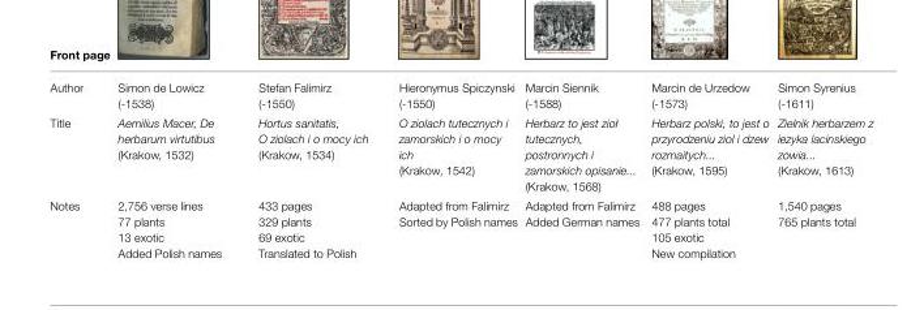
<table><thead><tr><td>Front page</td><td></td><td></td><td></td><td></td><td></td><td></td></tr></thead><tbody><tr><td>Author</td><td>Simon de Lowicz (-1538)</td><td>Stefan Falimirz (-1550)</td><td>Hieronymus Spiczynski (-1550)</td><td>Marcin Siennik (-1588)</td><td>Marcin de Urzedow (-1573)</td><td>Simon Syrenius (-1611)</td></tr><tr><td>Title</td><td>Aemilius Macer, De herbarum virtutibus (Krakow, 1532)</td><td>Hortus sanitatis, O ziolach i o mocy ich (Krakow, 1534)</td><td>O ziolach tutecznych i zamorskich i o mocy ich (Krakow, 1542)</td><td>Herbarz to jest zioł tutecznych, postronnych i zamorskich opisanie... (Krakow, 1568)</td><td>Herbarz polski, to jest o przyrodzeniu ziol i dzew rozmaitych... (Krakow, 1595)</td><td>Zielnik herbarzem z iezyka lacinskiego zowia... (Krakow, 1613)</td></tr><tr><td>Notes</td><td>2,756 verse lines 77 plants 13 exotic Added Polish names</td><td>433 pages 329 plants 69 exotic Translated to Polish</td><td>Adapted from Falimirz Sorted by Polish names</td><td>Adapted from Falimirz Added German names</td><td>488 pages 477 plants total 105 exotic New compilation</td><td>1,540 pages 765 plants total</td></tr></tbody></table>